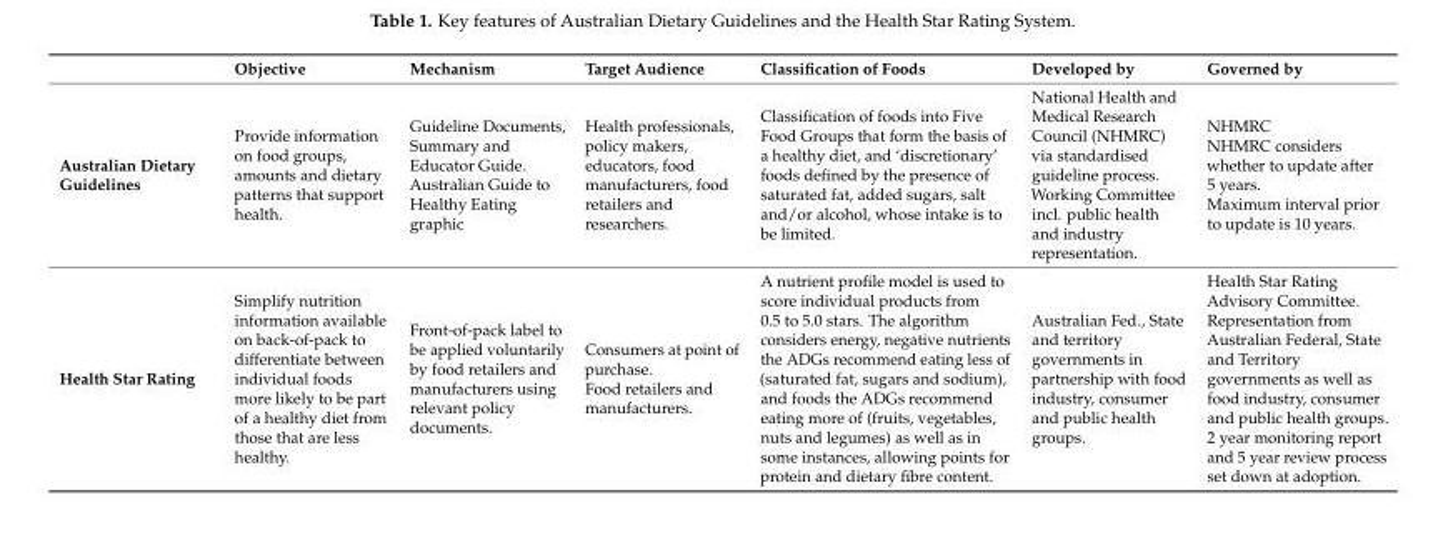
<table><thead><tr><td></td><td>Objective</td><td>Mechanism</td><td>Target Audience</td><td>Classification of Foods</td><td>Developed by</td><td>Governed by</td></tr></thead><tbody><tr><td>Australian Dietary Guidelines</td><td>Provide information on food groups, amounts and dietary patterns that support health.</td><td>Guideline Documents, Summary and Educator Guide. Australian Guide to Healthy Eating graphic</td><td>Health professionals, policy makers, educators, food manufacturers, food retailers and researchers.</td><td>Classification of foods into Five Food Groups that form the basis of a healthy diet, and ‘discretionary’ foods defined by the presence of saturated fat, added sugars, salt and/or alcohol, whose intake is to be limited.</td><td>National Health and Medical Research Council (NHMRC) via standardised guideline process. Working Committee incl. public health and industry representation.</td><td>NHMRC NHMRC considers whether to update after 5 years. Maximum interval prior to update is 10 years.</td></tr><tr><td>Health Star Rating</td><td>Simplify nutrition information available on back-of-pack to differentiate between individual foods more likely to be part of a healthy diet from those that are less healthy.</td><td>Front-of-pack label to be applied voluntarily by food retailers and manufacturers using relevant policy documents.</td><td>Consumers at point of purchase. Food retailers and manufacturers.</td><td>A nutrient profile model is used to score individual products from 0.5 to 5.0 stars. The algorithm considers energy, negative nutrients the ADGs recommend eating less of (saturated fat, sugars and sodium), and foods the ADGs recommend eating more of (fruits, vegetables, nuts and legumes) as well as in some instances, allowing points for protein and dietary fibre content.</td><td>Australian Fed., State and territory governments in partnership with food industry, consumer and public health groups.</td><td>Health Star Rating Advisory Committee. Representation from Australian Federal, State and Territory governments as well as food industry, consumer and public health groups. 2 year monitoring report and 5 year review process set down at adoption.</td></tr></tbody></table>